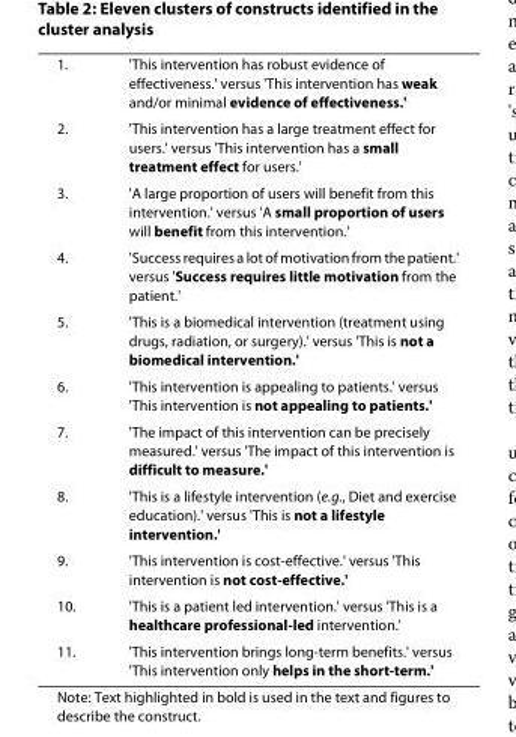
<table><tbody><tr><td>1.</td><td>&#x27;This intervention has robust evidence of effectiveness.&#x27; versus &#x27;This intervention has weak and/or minimal evidence of effectiveness.&#x27;</td></tr><tr><td>2.</td><td>&#x27;This intervention has a large treatment effect for users.&#x27; versus &#x27;This intervention has a small treatment effect for users.&#x27;</td></tr><tr><td>3.</td><td>&#x27;A large proportion of users will benefit from this intervention.&#x27; versus &#x27;A small proportion of users will benefit from this intervention.&#x27;</td></tr><tr><td>4.</td><td>&#x27;Success requires a lot of motivation from the patient.&#x27; versus &#x27;Success requires little motivation from the patient.&#x27;</td></tr><tr><td>5.</td><td>&#x27;This is a biomedical intervention (treatment using drugs, radiation, or surgery).&#x27; versus &#x27;This is not a biomedical intervention.&#x27;</td></tr><tr><td>6.</td><td>&#x27;This intervention is appealing to patients.&#x27; versus &#x27;This intervention is not appealing to patients.&#x27;</td></tr><tr><td>7.</td><td>&#x27;The impact of this intervention can be precisely measured.&#x27; versus &#x27;The impact of this intervention is difficult to measure.&#x27;</td></tr><tr><td>8.</td><td>&#x27;This is a lifestyle intervention (e.g., Diet and exercise education).&#x27; versus &#x27;This is not a lifestyle intervention.&#x27;</td></tr><tr><td>9.</td><td>&#x27;This intervention is cost-effective.&#x27; versus &#x27;This intervention is not cost-effective.&#x27;</td></tr><tr><td>10.</td><td>&#x27;This is a patient led intervention.&#x27; versus &#x27;This is a healthcare professional-led intervention.&#x27;</td></tr><tr><td>11.</td><td>&#x27;This intervention brings long-term benefits.&#x27; versus &#x27;This intervention only helps in the short-term.&#x27;</td></tr></tbody></table>